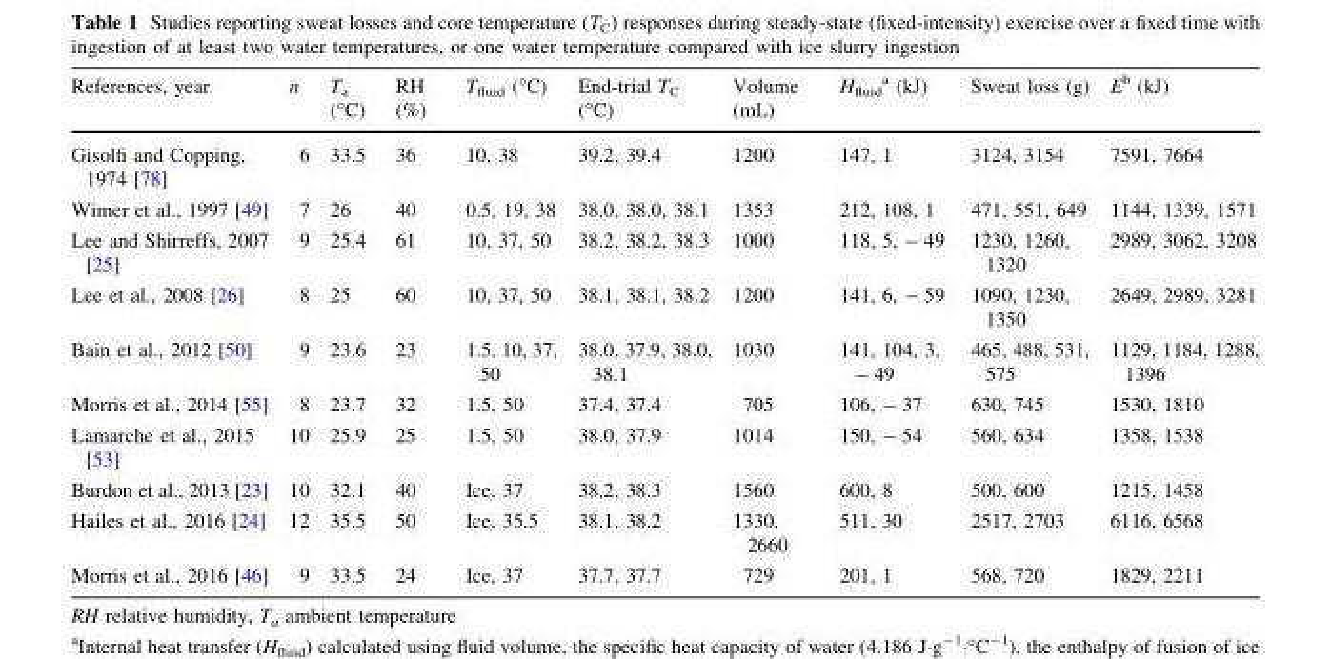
<table><thead><tr><td>References, year</td><td>n</td><td>T<sub>a</sub> (°C)</td><td>RH (%)</td><td>T<sub>fluid</sub> (°C)</td><td>End-trial T<sub>C</sub> (°C)</td><td>Volume (mL)</td><td>H<sub>fluid</sub> <sup>a</sup> (kJ)</td><td>Sweat loss (g)</td><td>E<sup>b</sup> (kJ)</td></tr></thead><tbody><tr><td>Gisolfi and Copping, 1974 [78]</td><td>6</td><td>33.5</td><td>36</td><td>10, 38</td><td>39.2, 39.4</td><td>1200</td><td>147, 1</td><td>3124, 3154</td><td>7591, 7664</td></tr><tr><td>Wimer et al., 1997 [49]</td><td>7</td><td>26</td><td>40</td><td>0.5, 19, 38</td><td>38.0, 38.0, 38.1</td><td>1353</td><td>212, 108, 1</td><td>471, 551, 649</td><td>1144, 1339, 1571</td></tr><tr><td>Lee and Shirreffs, 2007 [25]</td><td>9</td><td>25.4</td><td>61</td><td>10, 37, 50</td><td>38.2, 38.2, 38.3</td><td>1000</td><td>118, 5, - 49</td><td>1230, 1260, 1320</td><td>2989, 3062, 3208</td></tr><tr><td>Lee et al., 2008 [26]</td><td>8</td><td>25</td><td>60</td><td>10, 37, 50</td><td>38.1, 38.1, 38.2</td><td>1200</td><td>141, 6, - 59</td><td>1090, 1230, 1350</td><td>2649, 2989, 3281</td></tr><tr><td>Bain et al., 2012 [50]</td><td>9</td><td>23.6</td><td>23</td><td>1.5, 10, 37, 50</td><td>38.0, 37.9, 38.0, 38.1</td><td>1030</td><td>141, 104, 3, - 49</td><td>465, 488, 531, 575</td><td>1129, 1184, 1288, 1396</td></tr><tr><td>Morris et al., 2014 [55]</td><td>8</td><td>23.7</td><td>32</td><td>1.5, 50</td><td>37.4, 37.4</td><td>705</td><td>106, - 37</td><td>630, 745</td><td>1530, 1810</td></tr><tr><td>Lamarche et al., 2015 [53]</td><td>10</td><td>25.9</td><td>25</td><td>1.5, 50</td><td>38.0, 37.9</td><td>1014</td><td>150, - 54</td><td>560, 634</td><td>1358, 1538</td></tr><tr><td>Burdon et al., 2013 [23]</td><td>10</td><td>32.1</td><td>40</td><td>Ice, 37</td><td>38.2, 38.3</td><td>1560</td><td>600, 8</td><td>500, 600</td><td>1215, 1458</td></tr><tr><td>Hailes et al., 2016 [24]</td><td>12</td><td>35.5</td><td>50</td><td>Ice, 35.5</td><td>38.1, 38.2</td><td>1330, 2660</td><td>511, 30</td><td>2517, 2703</td><td>6116, 6568</td></tr><tr><td>Morris et al., 2016 [46]</td><td>9</td><td>33.5</td><td>24</td><td>Ice, 37</td><td>37.7, 37.7</td><td>729</td><td>201, 1</td><td>568, 720</td><td>1829, 2211</td></tr></tbody></table>